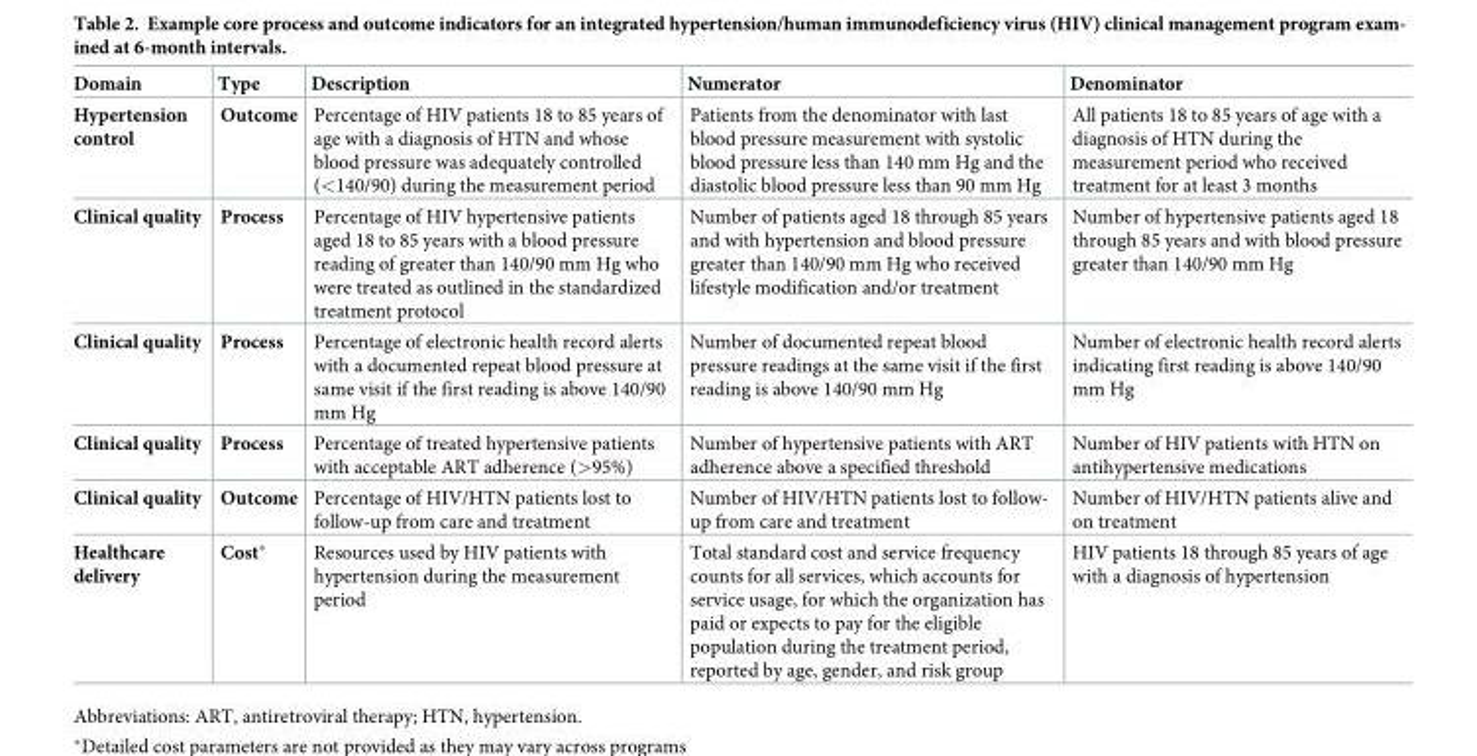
<table><thead><tr><td>Domain</td><td>Type</td><td>Description</td><td>Numerator</td><td>Denominator</td></tr></thead><tbody><tr><td>Hypertension control</td><td>Outcome</td><td>Percentage of HIV patients 18 to 85 years of age with a diagnosis of HTN and whose blood pressure was adequately controlled (&lt;140/90) during the measurement period</td><td>Patients from the denominator with last blood pressure measurement with systolic blood pressure less than 140 mm Hg and the diastolic blood pressure less than 90 mm Hg</td><td>All patients 18 to 85 years of age with a diagnosis of HTN during the measurement period who received treatment for at least 3 months</td></tr><tr><td>Clinical quality</td><td>Process</td><td>Percentage of HIV hypertensive patients aged 18 to 85 years with a blood pressure reading of greater than 140/90 mm Hg who were treated as outlined in the standardized treatment protocol</td><td>Number of patients aged 18 through 85 years and with hypertension and blood pressure greater than 140/90 mm Hg who received lifestyle modification and/or treatment</td><td>Number of hypertensive patients aged 18 through 85 years and with blood pressure greater than 140/90 mm Hg</td></tr><tr><td>Clinical quality</td><td>Process</td><td>Percentage of electronic health record alerts with a documented repeat blood pressure at same visit if the first reading is above 140/90 mm Hg</td><td>Number of documented repeat blood pressure readings at the same visit if the first reading is above 140/90 mm Hg</td><td>Number of electronic health record alerts indicating first reading is above 140/90 mm Hg</td></tr><tr><td>Clinical quality</td><td>Process</td><td>Percentage of treated hypertensive patients with acceptable ART adherence (&gt;95%)</td><td>Number of hypertensive patients with ART adherence above a specified threshold</td><td>Number of HIV patients with HTN on antihypertensive medications</td></tr><tr><td>Clinical quality</td><td>Outcome</td><td>Percentage of HIV/HTN patients lost to follow-up from care and treatment</td><td>Number of HIV/HTN patients lost to follow- up from care and treatment</td><td>Number of HIV/HTN patients alive and on treatment</td></tr><tr><td>Healthcare delivery</td><td>Cost*</td><td>Resources used by HIV patients with hypertension during the measurement period</td><td>Total standard cost and service frequency counts for all services, which accounts for service usage, for which the organization has paid or expects to pay for the eligible population during the treatment period, reported by age, gender, and risk group</td><td>HIV patients 18 through 85 years of age with a diagnosis of hypertension</td></tr></tbody></table>